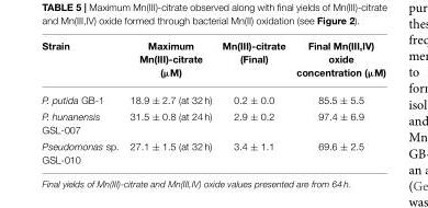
<table><thead><tr><td>Strain</td><td>Maximum Mn(III)-citrate (µM)</td><td>Mn(III)-citrate (Final)</td><td>Final Mn(III,IV) oxide concentration (µM)</td></tr></thead><tbody><tr><td>P. putida GB-1</td><td>18.9 ± 2.7 (at 32 h)</td><td>0.2 ± 0.0</td><td>85.5 ± 5.5</td></tr><tr><td>P. hunanensis GSL-007</td><td>31.5 ± 0.8 (at 24 h)</td><td>2.9 ± 0.2</td><td>97.4 ± 6.9</td></tr><tr><td>Pseudomonas sp. GSL-010</td><td>27.1 ± 1.5 (at 32 h)</td><td>3.4 ± 1.1</td><td>69.6 ± 2.5</td></tr></tbody></table>